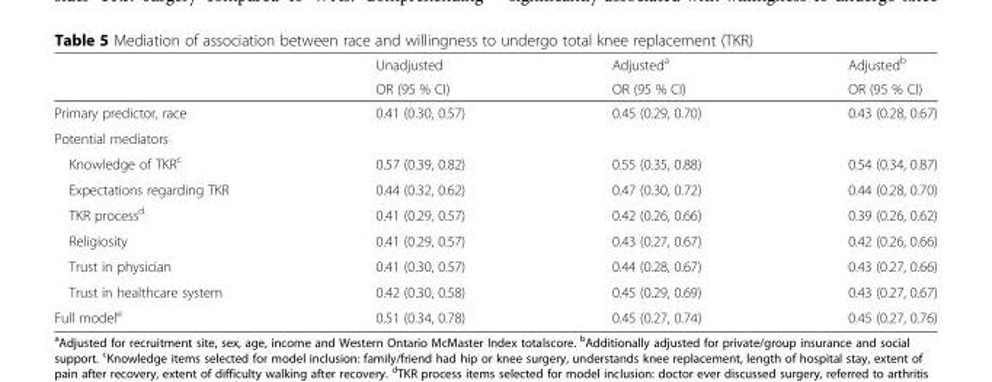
<table><thead><tr><td rowspan="2"></td><td rowspan="2">Unadjusted OR (95 % CI)</td><td rowspan="2">Adjusted<sup>a</sup> OR (95 % CI)</td><td rowspan="2">Adjusted<sup>b</sup> OR (95 % CI)</td></tr><tr></tr></thead><tbody><tr><td>Primary predictor, race</td><td>0.41 (0.30, 0.57)</td><td>0.45 (0.29, 0.70)</td><td>0.43 (0.28, 0.67)</td></tr><tr><td colspan="4">Potential mediators</td></tr><tr><td>Knowledge of TKR<sup>c</sup></td><td>0.57 (0.39, 0.82)</td><td>0.55 (0.35, 0.88)</td><td>0.54 (0.34, 0.87)</td></tr><tr><td>Expectations regarding TKR</td><td>0.44 (0.32, 0.62)</td><td>0.47 (0.30, 0.72)</td><td>0.44 (0.28, 0.70)</td></tr><tr><td>TKR process<sup>d</sup></td><td>0.41 (0.29, 0.57)</td><td>0.42 (0.26, 0.66)</td><td>0.39 (0.26, 0.62)</td></tr><tr><td>Religiosity</td><td>0.41 (0.29, 0.57)</td><td>0.43 (0.27, 0.67)</td><td>0.42 (0.26, 0.66)</td></tr><tr><td>Trust in physician</td><td>0.41 (0.30, 0.57)</td><td>0.44 (0.28, 0.67)</td><td>0.43 (0.27, 0.66)</td></tr><tr><td>Trust in healthcare system</td><td>0.42 (0.30, 0.58)</td><td>0.45 (0.29, 0.69)</td><td>0.43 (0.27, 0.67)</td></tr><tr><td>Full model<sup>e</sup></td><td>0.51 (0.34, 0.78)</td><td>0.45 (0.27, 0.74)</td><td>0.45 (0.27, 0.76)</td></tr></tbody></table>